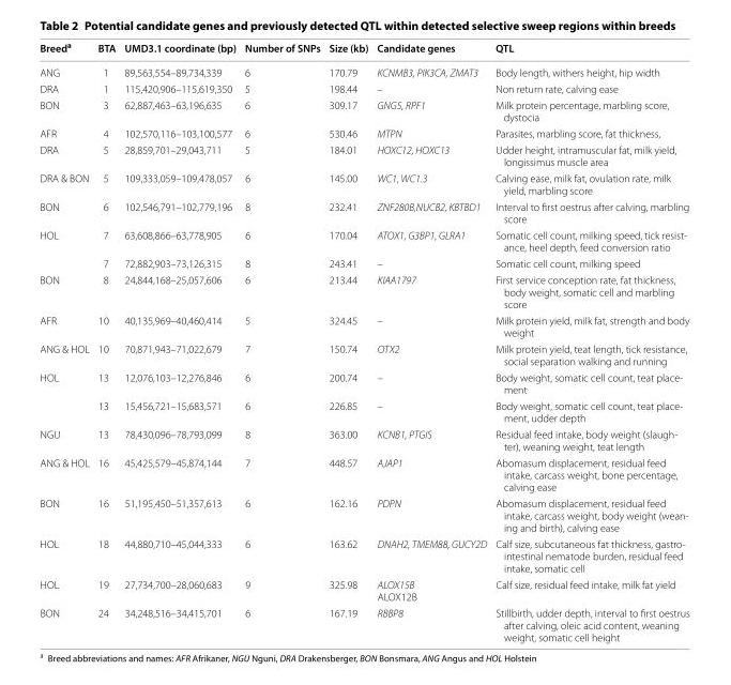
<table><thead><tr><td>Breed<sup>a</sup></td><td>BTA</td><td>UMD3.1 coordinate (bp)</td><td>Number of SNPs</td><td>Size (kb)</td><td>Candidate genes</td><td>QTL</td></tr></thead><tbody><tr><td>ANG</td><td>1</td><td>89,563,554–89,734,339</td><td>6</td><td>170.79</td><td>KCNMB3, PIK3CA, ZMAT3</td><td>Body length, withers height, hip width</td></tr><tr><td>DRA</td><td>1</td><td>115,420,906–115,619,350</td><td>5</td><td>198.44</td><td>–</td><td>Non return rate, calving ease</td></tr><tr><td>BON</td><td>3</td><td>62,887,463–63,196,635</td><td>6</td><td>309.17</td><td>GNG5, RPF1</td><td>Milk protein percentage, marbling score, dystocia</td></tr><tr><td>AFR</td><td>4</td><td>102,570,116–103,100,577</td><td>6</td><td>530.46</td><td>MTPN</td><td>Parasites, marbling score, fat thickness,</td></tr><tr><td>DRA</td><td>5</td><td>28,859,701–29,043,711</td><td>5</td><td>184.01</td><td>HOXC12, HOXC13</td><td>Udder height, intramuscular fat, milk yield, longissimus muscle area</td></tr><tr><td>DRA &amp; BON</td><td>5</td><td>109,333,059–109,478,057</td><td>6</td><td>145.00</td><td>WC1, WC1.3</td><td>Calving ease, milk fat, ovulation rate, milk yield, marbling score</td></tr><tr><td>BON</td><td>6</td><td>102,546,791–102,779,196</td><td>8</td><td>232.41</td><td>ZNF280B,NUCB2, KBTBD1</td><td>Interval to first oestrus after calving, marbling score</td></tr><tr><td rowspan="2">HOL</td><td>7</td><td>63,608,866–63,778,905</td><td>6</td><td>170.04</td><td>ATOX1, G3BP1, GLRA1</td><td>Somatic cell count, milking speed, tick resist‑ ance, heel depth, feed conversion ratio</td></tr><tr><td>7</td><td>72,882,903–73,126,315</td><td>8</td><td>243.41</td><td>–</td><td>Somatic cell count, milking speed</td></tr><tr><td>BON</td><td>8</td><td>24,844,168–25,057,606</td><td>6</td><td>213.44</td><td>KIAA1797</td><td>First service conception rate, fat thickness, body weight, somatic cell and marbling score</td></tr><tr><td>AFR</td><td>10</td><td>40,135,969–40,460,414</td><td>5</td><td>324.45</td><td>–</td><td>Milk protein yield, milk fat, strength and body weight</td></tr><tr><td>ANG &amp; HOL</td><td>10</td><td>70,871,943–71,022,679</td><td>7</td><td>150.74</td><td>OTX2</td><td>Milk protein yield, teat length, tick resistance, social separation walking and running</td></tr><tr><td rowspan="2">HOL</td><td>13</td><td>12,076,103–12,276,846</td><td>6</td><td>200.74</td><td>–</td><td>Body weight, somatic cell count, teat place‑ ment</td></tr><tr><td>13</td><td>15,456,721–15,683,571</td><td>6</td><td>226.85</td><td>–</td><td>Body weight, somatic cell count, teat place‑ ment, udder depth</td></tr><tr><td>NGU</td><td>13</td><td>78,430,096–78,793,099</td><td>8</td><td>363.00</td><td>KCNB1, PTGIS</td><td>Residual feed intake, body weight (slaugh‑ ter), weaning weight, teat length</td></tr><tr><td>ANG &amp; HOL</td><td>16</td><td>45,425,579–45,874,144</td><td>7</td><td>448.57</td><td>AJAP1</td><td>Abomasum displacement, residual feed intake, carcass weight, bone percentage, calving ease</td></tr><tr><td>BON</td><td>16</td><td>51,195,450–51,357,613</td><td>6</td><td>162.16</td><td>PDPN</td><td>Abomasum displacement, residual feed intake, carcass weight, body weight (wean‑ ing and birth), calving ease</td></tr><tr><td>HOL</td><td>18</td><td>44,880,710–45,044,333</td><td>6</td><td>163.62</td><td>DNAH2, TMEM88, GUCY2D</td><td>Calf size, subcutaneous fat thickness, gastro‑ intestinal nematode burden, residual feed intake, somatic cell</td></tr><tr><td>HOL</td><td>19</td><td>27,734,700–28,060,683</td><td>9</td><td>325.98</td><td>ALOX15B ALOX12B</td><td>Calf size, residual feed intake, milk fat yield</td></tr><tr><td>BON</td><td>24</td><td>34,248,516–34,415,701</td><td>6</td><td>167.19</td><td>RBBP8</td><td>Stillbirth, udder depth, interval to first oestrus after calving, oleic acid content, weaning weight, somatic cell height</td></tr></tbody></table>